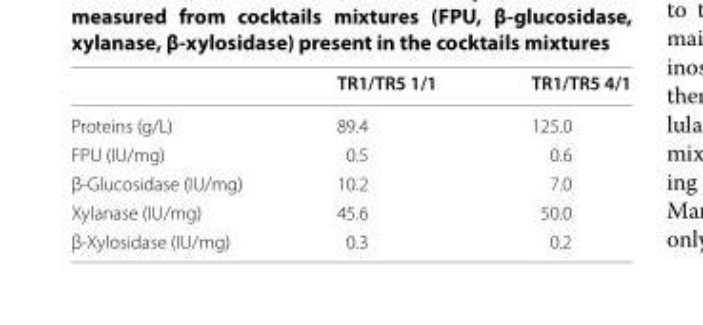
<table><thead><tr><td></td><td>TR1/TR5 1/1</td><td>TR1/TR5 4/1</td></tr></thead><tbody><tr><td>Proteins (g/L)</td><td>89.4</td><td>125.0</td></tr><tr><td>FPU (IU/mg)</td><td>0.5</td><td>0.6</td></tr><tr><td>β-Glucosidase (IU/mg)</td><td>10.2</td><td>7.0</td></tr><tr><td>Xylanase (IU/mg)</td><td>45.6</td><td>50.0</td></tr><tr><td>β-Xylosidase (IU/mg)</td><td>0.3</td><td>0.2</td></tr></tbody></table>